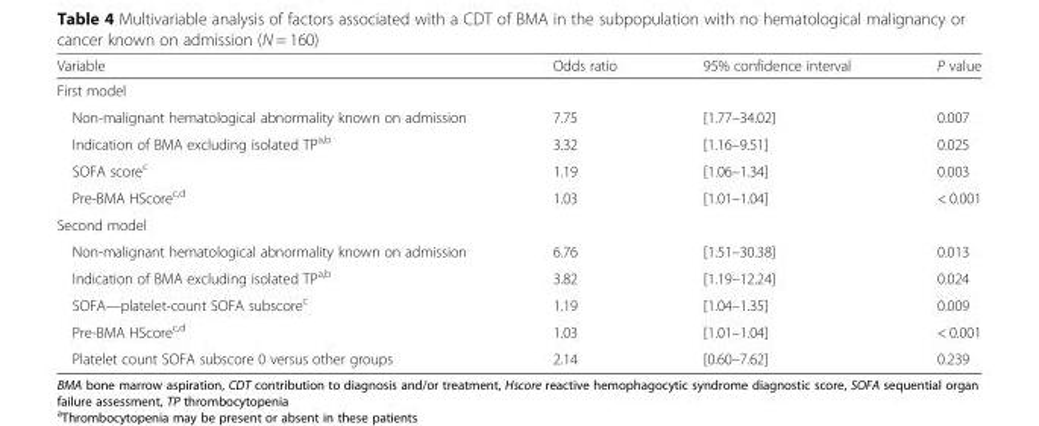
<table><thead><tr><td>Variable</td><td>Odds ratio</td><td>95% confidence interval</td><td>P value</td></tr></thead><tbody><tr><td colspan="4">First model</td></tr><tr><td>Non-malignant hematological abnormality known on admission</td><td>7.75</td><td>[1.77–34.02]</td><td>0.007</td></tr><tr><td>Indication of BMA excluding isolated TP<sup>a,b</sup></td><td>3.32</td><td>[1.16–9.51]</td><td>0.025</td></tr><tr><td>SOFA score<sup>c</sup></td><td>1.19</td><td>[1.06–1.34]</td><td>0.003</td></tr><tr><td>Pre-BMA HScore<sup>c,d</sup></td><td>1.03</td><td>[1.01–1.04]</td><td>&lt; 0.001</td></tr><tr><td colspan="4">Second model</td></tr><tr><td>Non-malignant hematological abnormality known on admission</td><td>6.76</td><td>[1.51–30.38]</td><td>0.013</td></tr><tr><td>Indication of BMA excluding isolated TP<sup>a,b</sup></td><td>3.82</td><td>[1.19–12.24]</td><td>0.024</td></tr><tr><td>SOFA—platelet-count SOFA subscore<sup>c</sup></td><td>1.19</td><td>[1.04–1.35]</td><td>0.009</td></tr><tr><td>Pre-BMA HScore<sup>c,d</sup></td><td>1.03</td><td>[1.01–1.04]</td><td>&lt; 0.001</td></tr><tr><td>Platelet count SOFA subscore 0 versus other groups</td><td>2.14</td><td>[0.60–7.62]</td><td>0.239</td></tr></tbody></table>